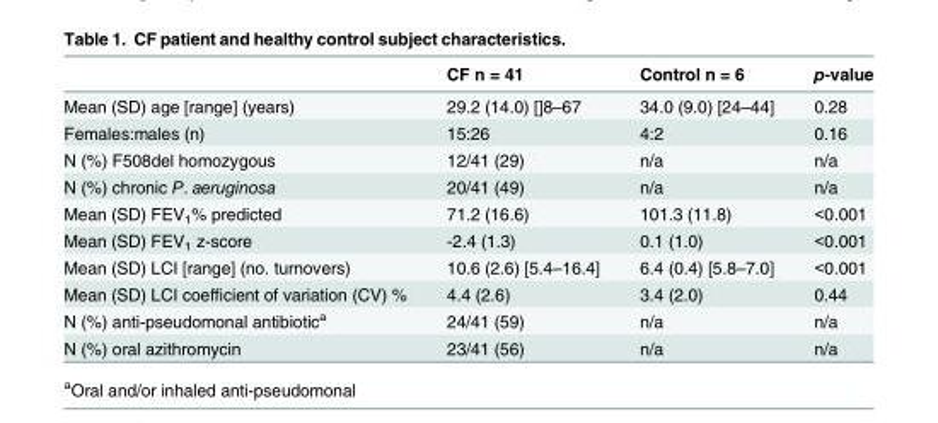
<table><thead><tr><td></td><td>CF n = 41</td><td>Control n = 6</td><td>p-value</td></tr></thead><tbody><tr><td>Mean (SD) age [range] (years)</td><td>29.2 (14.0) []8–67</td><td>34.0 (9.0) [24–44]</td><td>0.28</td></tr><tr><td>Females:males (n)</td><td>15:26</td><td>4:2</td><td>0.16</td></tr><tr><td>N (%) F508del homozygous</td><td>12/41 (29)</td><td>n/a</td><td>n/a</td></tr><tr><td>N (%) chronic P. aeruginosa</td><td>20/41 (49)</td><td>n/a</td><td>n/a</td></tr><tr><td>Mean (SD) FEV<sub>1</sub>% predicted</td><td>71.2 (16.6)</td><td>101.3 (11.8)</td><td>&lt;0.001</td></tr><tr><td>Mean (SD) FEV<sub>1</sub> z-score</td><td>-2.4 (1.3)</td><td>0.1 (1.0)</td><td>&lt;0.001</td></tr><tr><td>Mean (SD) LCI [range] (no. turnovers)</td><td>10.6 (2.6) [5.4–16.4]</td><td>6.4 (0.4) [5.8–7.0]</td><td>&lt;0.001</td></tr><tr><td>Mean (SD) LCI coefficient of variation (CV) %</td><td>4.4 (2.6)</td><td>3.4 (2.0)</td><td>0.44</td></tr><tr><td>N (%) anti-pseudomonal antibiotic<sup>a</sup></td><td>24/41 (59)</td><td>n/a</td><td>n/a</td></tr><tr><td>N (%) oral azithromycin</td><td>23/41 (56)</td><td>n/a</td><td>n/a</td></tr></tbody></table>